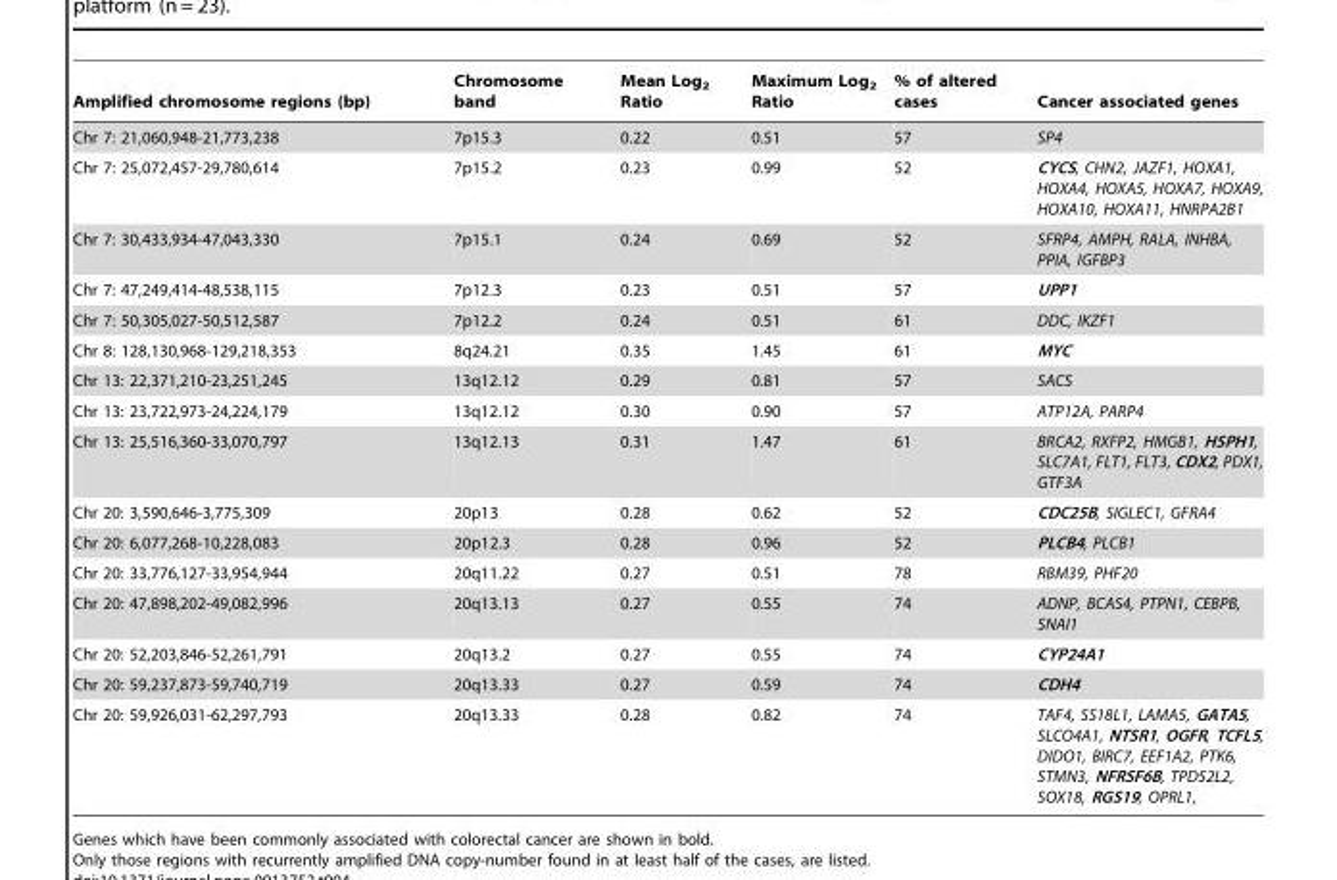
<table><thead><tr><td>Amplified chromosome regions (bp)</td><td>Chromosome band</td><td>Mean Log<sub>2</sub> Ratio</td><td>Maximum Log<sub>2</sub> Ratio</td><td>% of altered cases</td><td>Cancer associated genes</td></tr></thead><tbody><tr><td>Chr 7: 21,060,948-21,773,238</td><td>7p15.3</td><td>0.22</td><td>0.51</td><td>57</td><td>SP4</td></tr><tr><td>Chr 7: 25,072,457-29,780,614</td><td>7p15.2</td><td>0.23</td><td>0.99</td><td>52</td><td>CYCS, CHN2, JAZF1, HOXA1, HOXA4, HOXA5, HOXA7, HOXA9, HOXA10, HOXA11, HNRPA2B1</td></tr><tr><td>Chr 7: 30,433,934-47,043,330</td><td>7p15.1</td><td>0.24</td><td>0.69</td><td>52</td><td>SFRP4, AMPH, RALA, INHBA, PPIA, IGFBP3</td></tr><tr><td>Chr 7: 47,249,414-48,538,115</td><td>7p12.3</td><td>0.23</td><td>0.51</td><td>57</td><td>UPP1</td></tr><tr><td>Chr 7: 50,305,027-50,512,587</td><td>7p12.2</td><td>0.24</td><td>0.51</td><td>61</td><td>DDC, IKZF1</td></tr><tr><td>Chr 8: 128,130,968-129,218,353</td><td>8q24.21</td><td>0.35</td><td>1.45</td><td>61</td><td>MYC</td></tr><tr><td>Chr 13: 22,371,210-23,251,245</td><td>13q12.12</td><td>0.29</td><td>0.81</td><td>57</td><td>SACS</td></tr><tr><td>Chr 13: 23,722,973-24,224,179</td><td>13q12.12</td><td>0.30</td><td>0.90</td><td>57</td><td>ATP12A, PARP4</td></tr><tr><td>Chr 13: 25,516,360-33,070,797</td><td>13q12.13</td><td>0.31</td><td>1.47</td><td>61</td><td>BRCA2, RXFP2, HMGB1, HSPH1, SLC7A1, FLT1, FLT3, CDX2, PDX1, GTF3A</td></tr><tr><td>Chr 20: 3,590,646-3,775,309</td><td>20p13</td><td>0.28</td><td>0.62</td><td>52</td><td>CDC25B, SIGLEC1, GFRA4</td></tr><tr><td>Chr 20: 6,077,268-10,228,083</td><td>20p12.3</td><td>0.28</td><td>0.96</td><td>52</td><td>PLCB4, PLCB1</td></tr><tr><td>Chr 20: 33,776,127-33,954,944</td><td>20q11.22</td><td>0.27</td><td>0.51</td><td>78</td><td>RBM39, PHF20</td></tr><tr><td>Chr 20: 47,898,202-49,082,996</td><td>20q13.13</td><td>0.27</td><td>0.55</td><td>74</td><td>ADNP, BCAS4, PTPN1, CEBPB, SNAI1</td></tr><tr><td>Chr 20: 52,203,846-52,261,791</td><td>20q13.2</td><td>0.27</td><td>0.55</td><td>74</td><td>CYP24A1</td></tr><tr><td>Chr 20: 59,237,873-59,740,719</td><td>20q13.33</td><td>0.27</td><td>0.59</td><td>74</td><td>CDH4</td></tr><tr><td>Chr 20: 59,926,031-62,297,793</td><td>20q13.33</td><td>0.28</td><td>0.82</td><td>74</td><td>TAF4, SS18L1, LAMA5, GATA5, SLCO4A1, NTSR1, OGFR, TCFL5, DIDO1, BIRC7, EEF1A2, PTK6, STMN3, NFRSF6B, TPD52L2, SOX18, RGS19, OPRL1,</td></tr></tbody></table>